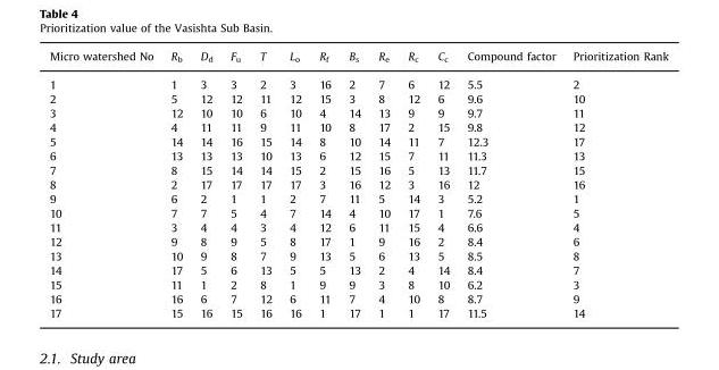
<table><thead><tr><td>Micro watershed No</td><td>R<sub>b</sub></td><td>D<sub>d</sub></td><td>F<sub>u</sub></td><td>T</td><td>L<sub>o</sub></td><td>R<sub>f</sub></td><td>B<sub>s</sub></td><td>R<sub>e</sub></td><td>R<sub>c</sub></td><td>C<sub>c</sub></td><td>Compound factor</td><td>Prioritization Rank</td></tr></thead><tbody><tr><td>1</td><td>1</td><td>3</td><td>3</td><td>2</td><td>3</td><td>16</td><td>2</td><td>7</td><td>6</td><td>12</td><td>5.5</td><td>2</td></tr><tr><td>2</td><td>5</td><td>12</td><td>12</td><td>11</td><td>12</td><td>15</td><td>3</td><td>8</td><td>12</td><td>6</td><td>9.6</td><td>10</td></tr><tr><td>3</td><td>12</td><td>10</td><td>10</td><td>6</td><td>10</td><td>4</td><td>14</td><td>13</td><td>9</td><td>9</td><td>9.7</td><td>11</td></tr><tr><td>4</td><td>4</td><td>11</td><td>11</td><td>9</td><td>11</td><td>10</td><td>8</td><td>17</td><td>2</td><td>15</td><td>9.8</td><td>12</td></tr><tr><td>5</td><td>14</td><td>14</td><td>16</td><td>15</td><td>14</td><td>8</td><td>10</td><td>14</td><td>11</td><td>7</td><td>12.3</td><td>17</td></tr><tr><td>6</td><td>13</td><td>13</td><td>13</td><td>10</td><td>13</td><td>6</td><td>12</td><td>15</td><td>7</td><td>11</td><td>11.3</td><td>13</td></tr><tr><td>7</td><td>8</td><td>15</td><td>14</td><td>14</td><td>15</td><td>2</td><td>15</td><td>16</td><td>5</td><td>13</td><td>11.7</td><td>15</td></tr><tr><td>8</td><td>2</td><td>17</td><td>17</td><td>17</td><td>17</td><td>3</td><td>16</td><td>12</td><td>3</td><td>16</td><td>12</td><td>16</td></tr><tr><td>9</td><td>6</td><td>2</td><td>1</td><td>1</td><td>2</td><td>7</td><td>11</td><td>5</td><td>14</td><td>3</td><td>5.2</td><td>1</td></tr><tr><td>10</td><td>7</td><td>7</td><td>5</td><td>4</td><td>7</td><td>14</td><td>4</td><td>10</td><td>17</td><td>1</td><td>7.6</td><td>5</td></tr><tr><td>11</td><td>3</td><td>4</td><td>4</td><td>3</td><td>4</td><td>12</td><td>6</td><td>11</td><td>15</td><td>4</td><td>6.6</td><td>4</td></tr><tr><td>12</td><td>9</td><td>8</td><td>9</td><td>5</td><td>8</td><td>17</td><td>1</td><td>9</td><td>16</td><td>2</td><td>8.4</td><td>6</td></tr><tr><td>13</td><td>10</td><td>9</td><td>8</td><td>7</td><td>9</td><td>13</td><td>5</td><td>6</td><td>13</td><td>5</td><td>8.5</td><td>8</td></tr><tr><td>14</td><td>17</td><td>5</td><td>6</td><td>13</td><td>5</td><td>5</td><td>13</td><td>2</td><td>4</td><td>14</td><td>8.4</td><td>7</td></tr><tr><td>15</td><td>11</td><td>1</td><td>2</td><td>8</td><td>1</td><td>9</td><td>9</td><td>3</td><td>8</td><td>10</td><td>6.2</td><td>3</td></tr><tr><td>16</td><td>16</td><td>6</td><td>7</td><td>12</td><td>6</td><td>11</td><td>7</td><td>4</td><td>10</td><td>8</td><td>8.7</td><td>9</td></tr><tr><td>17</td><td>15</td><td>16</td><td>15</td><td>16</td><td>16</td><td>1</td><td>17</td><td>1</td><td>1</td><td>17</td><td>11.5</td><td>14</td></tr></tbody></table>